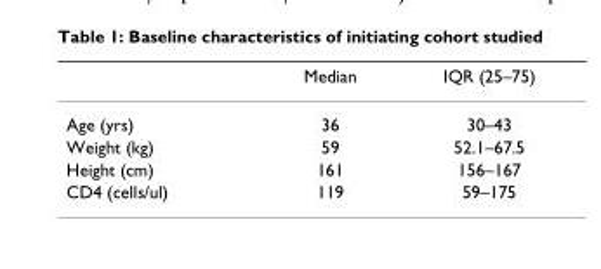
<table><thead><tr><td></td><td>Median</td><td>IQR (25–75)</td></tr></thead><tbody><tr><td>Age (yrs)</td><td>36</td><td>30–43</td></tr><tr><td>Weight (kg)</td><td>59</td><td>52.1–67.5</td></tr><tr><td>Height (cm)</td><td>161</td><td>156–167</td></tr><tr><td>CD4 (cells/ul)</td><td>119</td><td>59–175</td></tr></tbody></table>